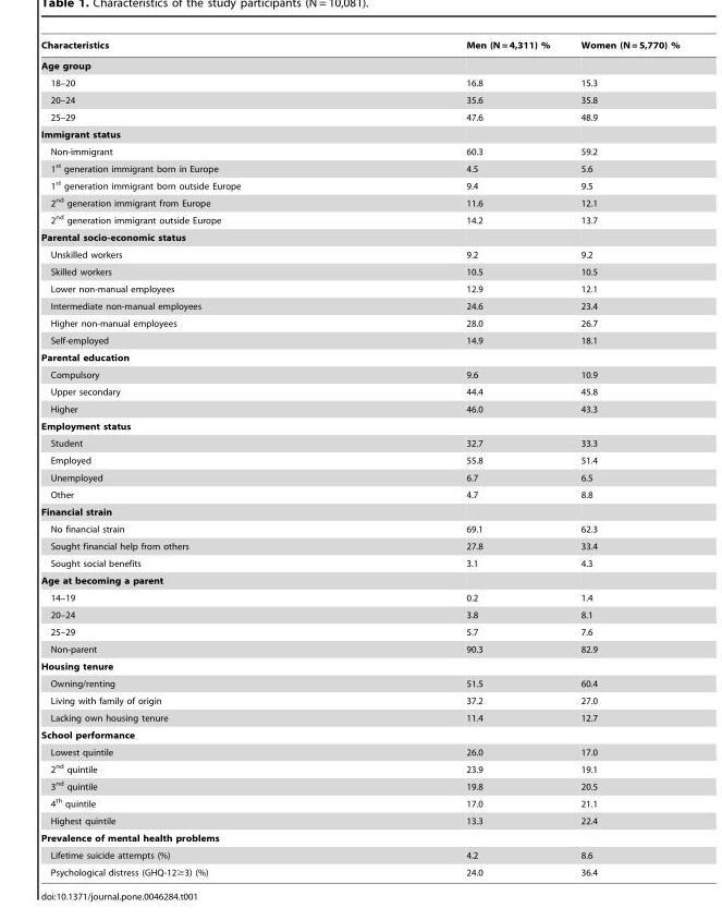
<table><thead><tr><td>Characteristics</td><td>Men (N = 4,311) %</td><td>Women (N = 5,770) %</td></tr></thead><tbody><tr><td colspan="3">Age group</td></tr><tr><td>18–20</td><td>16.8</td><td>15.3</td></tr><tr><td>20–24</td><td>35.6</td><td>35.8</td></tr><tr><td>25–29</td><td>47.6</td><td>48.9</td></tr><tr><td colspan="3">Immigrant status</td></tr><tr><td>Non-immigrant</td><td>60.3</td><td>59.2</td></tr><tr><td>1<sup>st</sup> generation immigrant born in Europe</td><td>4.5</td><td>5.6</td></tr><tr><td>1<sup>st</sup> generation immigrant born outside Europe</td><td>9.4</td><td>9.5</td></tr><tr><td>2<sup>nd</sup> generation immigrant from Europe</td><td>11.6</td><td>12.1</td></tr><tr><td>2<sup>nd</sup> generation immigrant outside Europe</td><td>14.2</td><td>13.7</td></tr><tr><td colspan="3">Parental socio-economic status</td></tr><tr><td>Unskilled workers</td><td>9.2</td><td>9.2</td></tr><tr><td>Skilled workers</td><td>10.5</td><td>10.5</td></tr><tr><td>Lower non-manual employees</td><td>12.9</td><td>12.1</td></tr><tr><td>Intermediate non-manual employees</td><td>24.6</td><td>23.4</td></tr><tr><td>Higher non-manual employees</td><td>28.0</td><td>26.7</td></tr><tr><td>Self-employed</td><td>14.9</td><td>18.1</td></tr><tr><td colspan="3">Parental education</td></tr><tr><td>Compulsory</td><td>9.6</td><td>10.9</td></tr><tr><td>Upper secondary</td><td>44.4</td><td>45.8</td></tr><tr><td>Higher</td><td>46.0</td><td>43.3</td></tr><tr><td colspan="3">Employment status</td></tr><tr><td>Student</td><td>32.7</td><td>33.3</td></tr><tr><td>Employed</td><td>55.8</td><td>51.4</td></tr><tr><td>Unemployed</td><td>6.7</td><td>6.5</td></tr><tr><td>Other</td><td>4.7</td><td>8.8</td></tr><tr><td colspan="3">Financial strain</td></tr><tr><td>No financial strain</td><td>69.1</td><td>62.3</td></tr><tr><td>Sought financial help from others</td><td>27.8</td><td>33.4</td></tr><tr><td>Sought social benefits</td><td>3.1</td><td>4.3</td></tr><tr><td colspan="3">Age at becoming a parent</td></tr><tr><td>14–19</td><td>0.2</td><td>1.4</td></tr><tr><td>20–24</td><td>3.8</td><td>8.1</td></tr><tr><td>25–29</td><td>5.7</td><td>7.6</td></tr><tr><td>Non-parent</td><td>90.3</td><td>82.9</td></tr><tr><td colspan="3">Housing tenure</td></tr><tr><td>Owning/renting</td><td>51.5</td><td>60.4</td></tr><tr><td>Living with family of origin</td><td>37.2</td><td>27.0</td></tr><tr><td>Lacking own housing tenure</td><td>11.4</td><td>12.7</td></tr><tr><td colspan="3">School performance</td></tr><tr><td>Lowest quintile</td><td>26.0</td><td>17.0</td></tr><tr><td>2<sup>nd</sup> quintile</td><td>23.9</td><td>19.1</td></tr><tr><td>3<sup>nd</sup> quintile</td><td>19.8</td><td>20.5</td></tr><tr><td>4<sup>th</sup> quintile</td><td>17.0</td><td>21.1</td></tr><tr><td>Highest quintile</td><td>13.3</td><td>22.4</td></tr><tr><td colspan="3">Prevalence of mental health problems</td></tr><tr><td>Lifetime suicide attempts (%)</td><td>4.2</td><td>8.6</td></tr><tr><td>Psychological distress (GHQ-12≥3) (%)</td><td>24.0</td><td>36.4</td></tr></tbody></table>